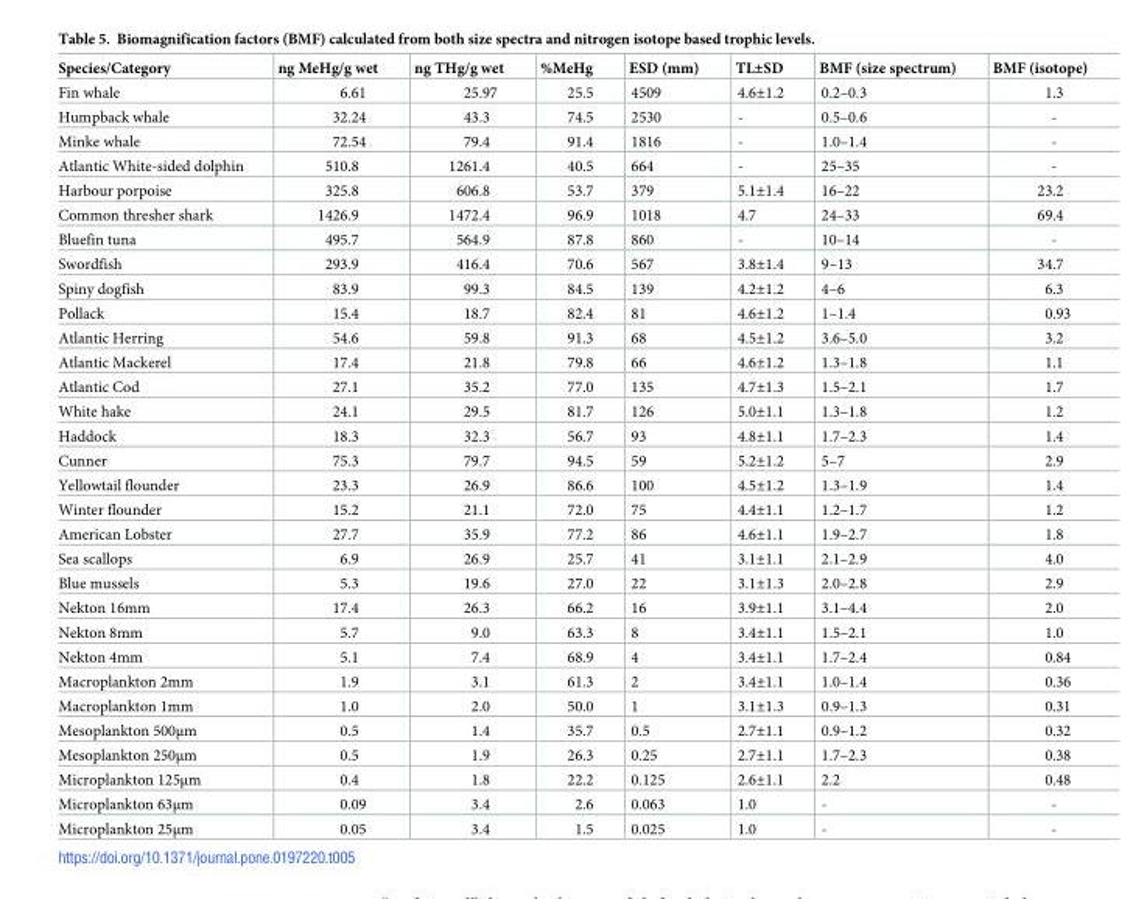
<table><thead><tr><td>Species/Category</td><td>ng MeHg/g wet</td><td>ng THg/g wet</td><td>%MeHg</td><td>ESD (mm)</td><td>TL±SD</td><td>BMF (size spectrum)</td><td>BMF (isotope)</td></tr></thead><tbody><tr><td>Fin whale</td><td>6.61</td><td>25.97</td><td>25.5</td><td>4509</td><td>4.6±1.2</td><td>0.2–0.3</td><td>1.3</td></tr><tr><td>Humpback whale</td><td>32.24</td><td>43.3</td><td>74.5</td><td>2530</td><td>-</td><td>0.5–0.6</td><td>-</td></tr><tr><td>Minke whale</td><td>72.54</td><td>79.4</td><td>91.4</td><td>1816</td><td>-</td><td>1.0–1.4</td><td>-</td></tr><tr><td>Atlantic White-sided dolphin</td><td>510.8</td><td>1261.4</td><td>40.5</td><td>664</td><td>-</td><td>25–35</td><td>-</td></tr><tr><td>Harbour porpoise</td><td>325.8</td><td>606.8</td><td>53.7</td><td>379</td><td>5.1±1.4</td><td>16–22</td><td>23.2</td></tr><tr><td>Common thresher shark</td><td>1426.9</td><td>1472.4</td><td>96.9</td><td>1018</td><td>4.7</td><td>24–33</td><td>69.4</td></tr><tr><td>Bluefin tuna</td><td>495.7</td><td>564.9</td><td>87.8</td><td>860</td><td>-</td><td>10–14</td><td>-</td></tr><tr><td>Swordfish</td><td>293.9</td><td>416.4</td><td>70.6</td><td>567</td><td>3.8±1.4</td><td>9–13</td><td>34.7</td></tr><tr><td>Spiny dogfish</td><td>83.9</td><td>99.3</td><td>84.5</td><td>139</td><td>4.2±1.2</td><td>4–6</td><td>6.3</td></tr><tr><td>Pollack</td><td>15.4</td><td>18.7</td><td>82.4</td><td>81</td><td>4.6±1.2</td><td>1–1.4</td><td>0.93</td></tr><tr><td>Atlantic Herring</td><td>54.6</td><td>59.8</td><td>91.3</td><td>68</td><td>4.5±1.2</td><td>3.6–5.0</td><td>3.2</td></tr><tr><td>Atlantic Mackerel</td><td>17.4</td><td>21.8</td><td>79.8</td><td>66</td><td>4.6±1.2</td><td>1.3–1.8</td><td>1.1</td></tr><tr><td>Atlantic Cod</td><td>27.1</td><td>35.2</td><td>77.0</td><td>135</td><td>4.7±1.3</td><td>1.5–2.1</td><td>1.7</td></tr><tr><td>White hake</td><td>24.1</td><td>29.5</td><td>81.7</td><td>126</td><td>5.0±1.1</td><td>1.3–1.8</td><td>1.2</td></tr><tr><td>Haddock</td><td>18.3</td><td>32.3</td><td>56.7</td><td>93</td><td>4.8±1.1</td><td>1.7–2.3</td><td>1.4</td></tr><tr><td>Cunner</td><td>75.3</td><td>79.7</td><td>94.5</td><td>59</td><td>5.2±1.2</td><td>5–7</td><td>2.9</td></tr><tr><td>Yellowtail flounder</td><td>23.3</td><td>26.9</td><td>86.6</td><td>100</td><td>4.5±1.2</td><td>1.3–1.9</td><td>1.4</td></tr><tr><td>Winter flounder</td><td>15.2</td><td>21.1</td><td>72.0</td><td>75</td><td>4.4±1.1</td><td>1.2–1.7</td><td>1.2</td></tr><tr><td>American Lobster</td><td>27.7</td><td>35.9</td><td>77.2</td><td>86</td><td>4.6±1.1</td><td>1.9–2.7</td><td>1.8</td></tr><tr><td>Sea scallops</td><td>6.9</td><td>26.9</td><td>25.7</td><td>41</td><td>3.1±1.1</td><td>2.1–2.9</td><td>4.0</td></tr><tr><td>Blue mussels</td><td>5.3</td><td>19.6</td><td>27.0</td><td>22</td><td>3.1±1.3</td><td>2.0–2.8</td><td>2.9</td></tr><tr><td>Nekton 16mm</td><td>17.4</td><td>26.3</td><td>66.2</td><td>16</td><td>3.9±1.1</td><td>3.1–4.4</td><td>2.0</td></tr><tr><td>Nekton 8mm</td><td>5.7</td><td>9.0</td><td>63.3</td><td>8</td><td>3.4±1.1</td><td>1.5–2.1</td><td>1.0</td></tr><tr><td>Nekton 4mm</td><td>5.1</td><td>7.4</td><td>68.9</td><td>4</td><td>3.4±1.1</td><td>1.7–2.4</td><td>0.84</td></tr><tr><td>Macroplankton 2mm</td><td>1.9</td><td>3.1</td><td>61.3</td><td>2</td><td>3.4±1.1</td><td>1.0–1.4</td><td>0.36</td></tr><tr><td>Macroplankton 1mm</td><td>1.0</td><td>2.0</td><td>50.0</td><td>1</td><td>3.1±1.3</td><td>0.9–1.3</td><td>0.31</td></tr><tr><td>Mesoplankton 500μm</td><td>0.5</td><td>1.4</td><td>35.7</td><td>0.5</td><td>2.7±1.1</td><td>0.9–1.2</td><td>0.32</td></tr><tr><td>Mesoplankton 250μm</td><td>0.5</td><td>1.9</td><td>26.3</td><td>0.25</td><td>2.7±1.1</td><td>1.7–2.3</td><td>0.38</td></tr><tr><td>Microplankton 125μm</td><td>0.4</td><td>1.8</td><td>22.2</td><td>0.125</td><td>2.6±1.1</td><td>2.2</td><td>0.48</td></tr><tr><td>Microplankton 63μm</td><td>0.09</td><td>3.4</td><td>2.6</td><td>0.063</td><td>1.0</td><td>-</td><td>-</td></tr><tr><td>Microplankton 25μm</td><td>0.05</td><td>3.4</td><td>1.5</td><td>0.025</td><td>1.0</td><td>-</td><td>-</td></tr></tbody></table>